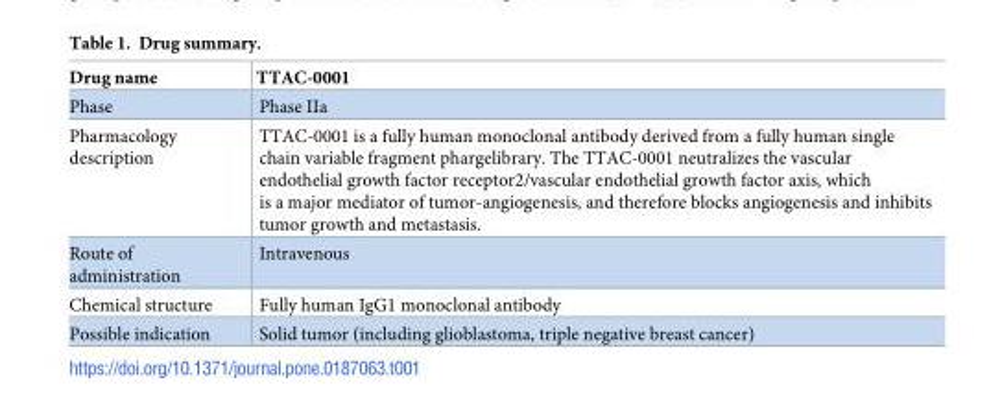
<table><thead><tr><td>Drug name</td><td>TTAC-0001</td></tr></thead><tbody><tr><td>Phase</td><td>Phase IIa</td></tr><tr><td>Pharmacology description</td><td>TTAC-0001 is a fully human monoclonal antibody derived from a fully human single chain variable fragment phargelibrary. The TTAC-0001 neutralizes the vascular endothelial growth factor receptor2/vascular endothelial growth factor axis, which is a major mediator of tumor-angiogenesis, and therefore blocks angiogenesis and inhibits tumor growth and metastasis.</td></tr><tr><td>Route of administration</td><td>Intravenous</td></tr><tr><td>Chemical structure</td><td>Fully human IgG1 monoclonal antibody</td></tr><tr><td>Possible indication</td><td>Solid tumor (including glioblastoma, triple negative breast cancer)</td></tr></tbody></table>